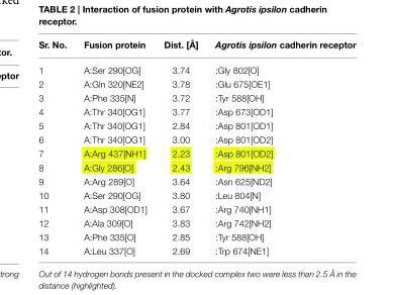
<table><thead><tr><td>Sr. No.</td><td>Fusion protein</td><td>Dist. [Å]</td><td>Agrotis ipsilon cadherin receptor</td></tr></thead><tbody><tr><td>1</td><td>A:Ser 290[OG]</td><td>3.74</td><td>:Gly 802[O]</td></tr><tr><td>2</td><td>A:Gln 320[NE2]</td><td>3.78</td><td>:Glu 675[OE1]</td></tr><tr><td>3</td><td>A:Phe 335[N]</td><td>3.72</td><td>:Tyr 588[OH]</td></tr><tr><td>4</td><td>A:Thr 340[OG1]</td><td>3.77</td><td>:Asp 673[OD1]</td></tr><tr><td>5</td><td>A:Thr 340[OG1]</td><td>2.84</td><td>:Asp 801[OD1]</td></tr><tr><td>6</td><td>A:Thr 340[OG1]</td><td>3.00</td><td>:Asp 801[OD2]</td></tr><tr><td>7</td><td>A:Arg 437[NH1]</td><td>2.23</td><td>:Asp 801[OD2]</td></tr><tr><td>8</td><td>A:Gly 286[O]</td><td>2.43</td><td>:Arg 796[NH2]</td></tr><tr><td>9</td><td>A:Arg 289[O]</td><td>3.64</td><td>:Asn 625[ND2]</td></tr><tr><td>10</td><td>A:Ser 290[OG]</td><td>3.80</td><td>:Leu 804[N]</td></tr><tr><td>11</td><td>A:Asp 308[OD1]</td><td>3.67</td><td>:Arg 740[NH1]</td></tr><tr><td>12</td><td>A:Ala 309[O]</td><td>3.83</td><td>:Arg 742[NH2]</td></tr><tr><td>13</td><td>A:Phe 335[O]</td><td>2.85</td><td>:Tyr 588[OH]</td></tr><tr><td>14</td><td>A:Leu 337[O]</td><td>2.69</td><td>:Trp 674[NE1]</td></tr></tbody></table>